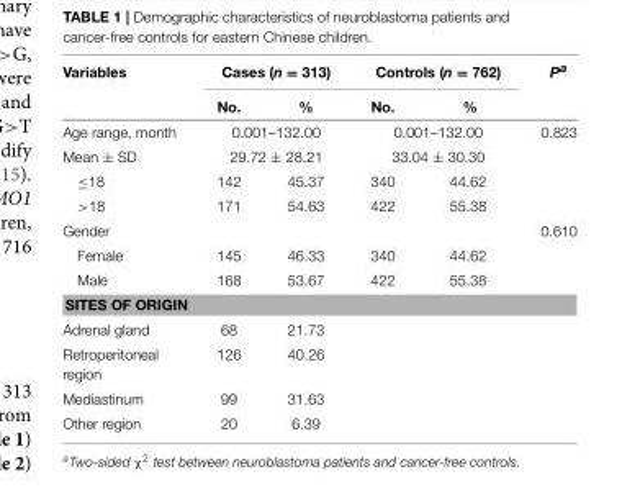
<table><thead><tr><td rowspan="2">Variables</td><td colspan="2">Cases (n = 313)</td><td colspan="2">Controls (n = 762)</td><td rowspan="2">Pa</td></tr><tr><td>No.</td><td>%</td><td>No.</td><td>%</td></tr></thead><tbody><tr><td>Age range, month</td><td colspan="2">0.001–132.00</td><td colspan="2">0.001–132.00</td><td>0.823</td></tr><tr><td>Mean ± SD</td><td colspan="2">29.72 ± 28.21</td><td colspan="2">33.04 ± 30.30</td><td></td></tr><tr><td>≤18</td><td>142</td><td>45.37</td><td>340</td><td>44.62</td><td></td></tr><tr><td>&gt;18</td><td>171</td><td>54.63</td><td>422</td><td>55.38</td><td></td></tr><tr><td>Gender</td><td></td><td></td><td></td><td></td><td>0.610</td></tr><tr><td>Female</td><td>145</td><td>46.33</td><td>340</td><td>44.62</td><td></td></tr><tr><td>Male</td><td>168</td><td>53.67</td><td>422</td><td>55.38</td><td></td></tr><tr><td colspan="6">SITES OF ORIGIN</td></tr><tr><td>Adrenal gland</td><td>68</td><td>21.73</td><td></td><td></td><td></td></tr><tr><td>Retroperitoneal region</td><td>126</td><td>40.26</td><td></td><td></td><td></td></tr><tr><td>Mediastinum</td><td>99</td><td>31.63</td><td></td><td></td><td></td></tr><tr><td>Other region</td><td>20</td><td>6.39</td><td></td><td></td><td></td></tr></tbody></table>